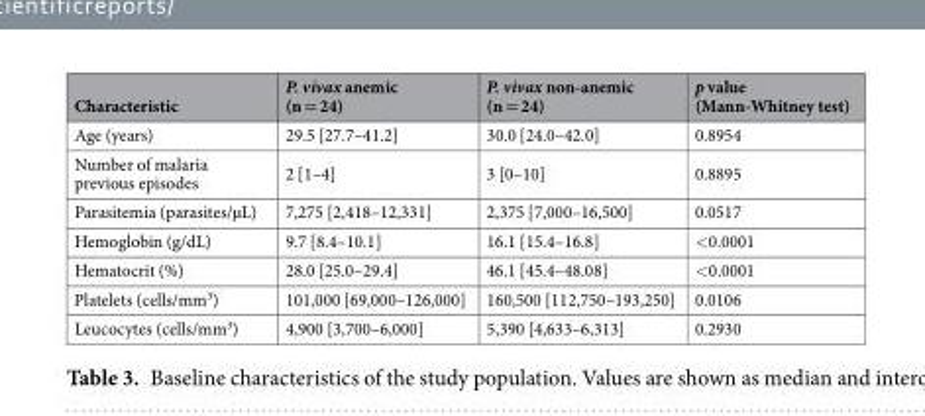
<table><thead><tr><td>Characteristic</td><td>P. vivax anemic (n = 24)</td><td>P. vivax non-anemic (n = 24)</td><td>p value (Mann-Whitney test)</td></tr></thead><tbody><tr><td>Age (years)</td><td>29.5 [27.7–41.2]</td><td>30.0 [24.0–42.0]</td><td>0.8954</td></tr><tr><td>Number of malaria previous episodes</td><td>2 [1–4]</td><td>3 [0–10]</td><td>0.8895</td></tr><tr><td>Parasitemia (parasites/µL)</td><td>7,275 [2,418–12,331]</td><td>2,375 [7,000–16,500]</td><td>0.0517</td></tr><tr><td>Hemoglobin (g/dL)</td><td>9.7 [8.4–10.1]</td><td>16.1 [15.4–16.8]</td><td>&lt;0.0001</td></tr><tr><td>Hematocrit (%)</td><td>28.0 [25.0–29.4]</td><td>46.1 [45.4–48.08]</td><td>&lt;0.0001</td></tr><tr><td>Platelets (cells/mm<sup>3</sup>)</td><td>101,000 [69,000–126,000]</td><td>160,500 [112,750–193,250]</td><td>0.0106</td></tr><tr><td>Leucocytes (cells/mm<sup>3</sup>)</td><td>4,900 [3,700–6,000]</td><td>5,390 [4,633–6,313]</td><td>0.2930</td></tr></tbody></table>